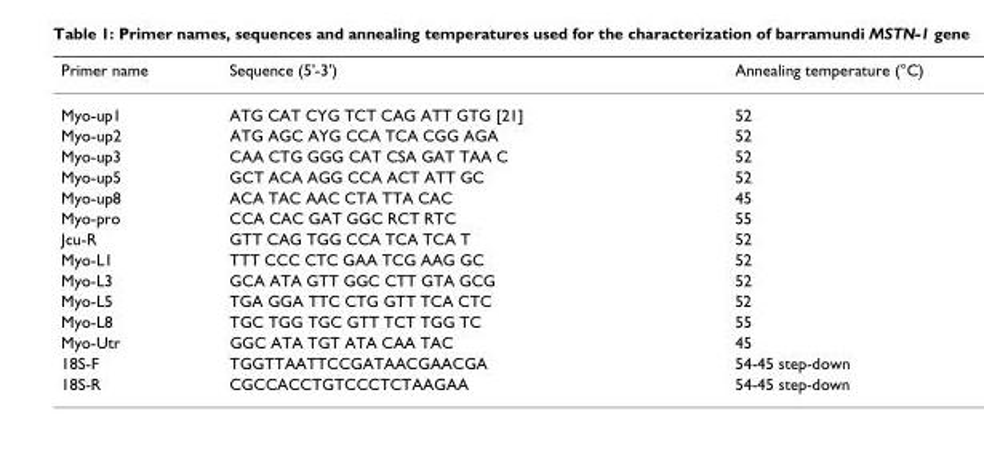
<table><thead><tr><td>Primer name</td><td>Sequence (5&#x27;-3&#x27;)</td><td>Annealing temperature (°C)</td></tr></thead><tbody><tr><td>Myo-up1</td><td>ATG CAT CYG TCT CAG ATT GTG [21]</td><td>52</td></tr><tr><td>Myo-up2</td><td>ATG AGC AYG CCA TCA CGG AGA</td><td>52</td></tr><tr><td>Myo-up3</td><td>CAA CTG GGG CAT CSA GAT TAA C</td><td>52</td></tr><tr><td>Myo-up5</td><td>GCT ACA AGG CCA ACT ATT GC</td><td>52</td></tr><tr><td>Myo-up8</td><td>ACA TAC AAC CTA TTA CAC</td><td>45</td></tr><tr><td>Myo-pro</td><td>CCA CAC GAT GGC RCT RTC</td><td>55</td></tr><tr><td>Jcu-R</td><td>GTT CAG TGG CCA TCA TCA T</td><td>52</td></tr><tr><td>Myo-L1</td><td>TTT CCC CTC GAA TCG AAG GC</td><td>52</td></tr><tr><td>Myo-L3</td><td>GCA ATA GTT GGC CTT GTA GCG</td><td>52</td></tr><tr><td>Myo-L5</td><td>TGA GGA TTC CTG GTT TCA CTC</td><td>52</td></tr><tr><td>Myo-L8</td><td>TGC TGG TGC GTT TCT TGG TC</td><td>55</td></tr><tr><td>Myo-Utr</td><td>GGC ATA TGT ATA CAA TAC</td><td>45</td></tr><tr><td>18S-F</td><td>TGGTTAATTCCGATAACGAACGA</td><td>54-45 step-down</td></tr><tr><td>18S-R</td><td>CGCCACCTGTCCCTCTAAGAA</td><td>54-45 step-down</td></tr></tbody></table>